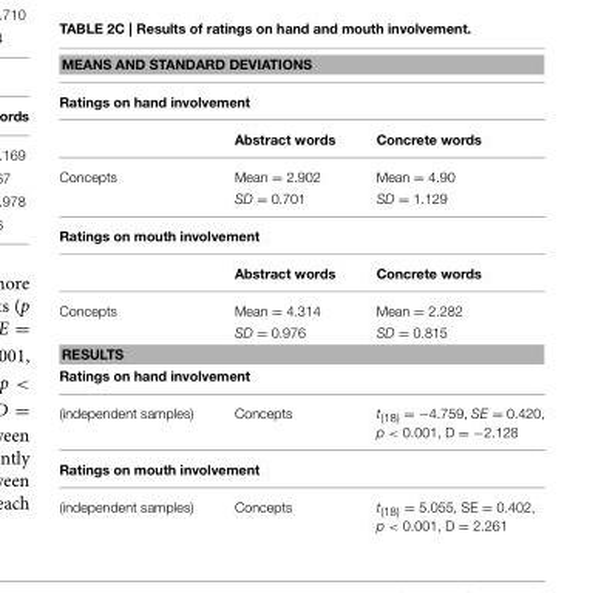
<table><thead><tr><td rowspan="2" colspan="3">MEANS AND STANDARD DEVIATIONS Ratings on hand involvement</td></tr><tr></tr><tr><td></td><td>Abstract words</td><td>Concrete words</td></tr></thead><tbody><tr><td rowspan="2">Concepts</td><td>Mean = 2.902</td><td>Mean = 4.90</td></tr><tr><td>SD = 0.701</td><td>SD = 1.129</td></tr><tr><td colspan="3">Ratings on mouth involvement</td></tr><tr><td></td><td>Abstract words</td><td>Concrete words</td></tr><tr><td rowspan="2">Concepts</td><td>Mean = 4.314</td><td>Mean = 2.282</td></tr><tr><td>SD = 0.976</td><td>SD = 0.815</td></tr><tr><td colspan="3">RESULTS</td></tr><tr><td colspan="3">Ratings on hand involvement</td></tr><tr><td>(independent samples)</td><td>Concepts</td><td>t<sub>(18)</sub> = −4.759, SE = 0.420, p &lt; 0.001, D = −2.128</td></tr><tr><td colspan="3">Ratings on mouth involvement</td></tr><tr><td>(independent samples)</td><td>Concepts</td><td>t<sub>(18)</sub> = 5.055, SE = 0.402, p &lt; 0.001, D = 2.261</td></tr></tbody></table>